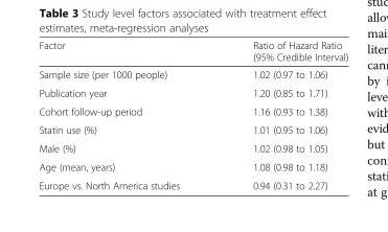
<table><thead><tr><td>Factor</td><td>Ratio of Hazard Ratio (95% Credible Interval)</td></tr></thead><tbody><tr><td>Sample size (per 1000 people)</td><td>1.02 (0.97 to 1.06)</td></tr><tr><td>Publication year</td><td>1.20 (0.85 to 1.71)</td></tr><tr><td>Cohort follow-up period</td><td>1.16 (0.93 to 1.38)</td></tr><tr><td>Statin use (%)</td><td>1.01 (0.95 to 1.06)</td></tr><tr><td>Male (%)</td><td>1.02 (0.98 to 1.05)</td></tr><tr><td>Age (mean, years)</td><td>1.08 (0.98 to 1.18)</td></tr><tr><td>Europe vs. North America studies</td><td>0.94 (0.31 to 2.27)</td></tr></tbody></table>